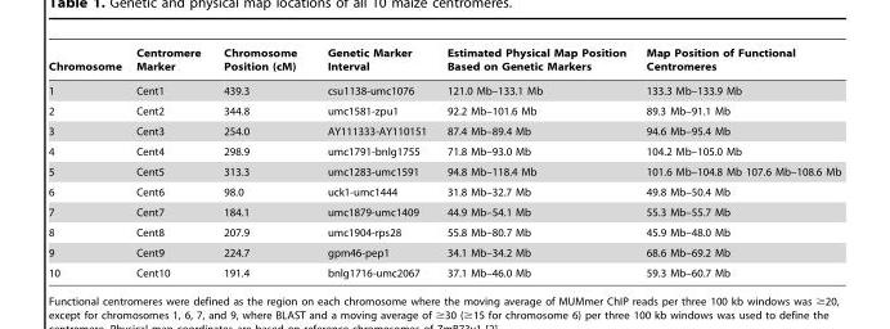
<table><thead><tr><td>Chromosome</td><td>Centromere Marker</td><td>Chromosome Position (cM)</td><td>Genetic Marker Interval</td><td>Estimated Physical Map Position Based on Genetic Markers</td><td>Map Position of Functional Centromeres</td></tr></thead><tbody><tr><td>1</td><td>Cent1</td><td>439.3</td><td>csu1138-umc1076</td><td>121.0 Mb–133.1 Mb</td><td>133.3 Mb–133.9 Mb</td></tr><tr><td>2</td><td>Cent2</td><td>344.8</td><td>umc1581-zpu1</td><td>92.2 Mb–101.6 Mb</td><td>89.3 Mb–91.1 Mb</td></tr><tr><td>3</td><td>Cent3</td><td>254.0</td><td>AY111333-AY110151</td><td>87.4 Mb–89.4 Mb</td><td>94.6 Mb–95.4 Mb</td></tr><tr><td>4</td><td>Cent4</td><td>298.9</td><td>umc1791-bnlg1755</td><td>71.8 Mb–93.0 Mb</td><td>104.2 Mb–105.0 Mb</td></tr><tr><td>5</td><td>Cent5</td><td>313.3</td><td>umc1283-umc1591</td><td>94.8 Mb–118.4 Mb</td><td>101.6 Mb–104.8 Mb 107.6 Mb–108.6 Mb</td></tr><tr><td>6</td><td>Cent6</td><td>98.0</td><td>uck1-umc1444</td><td>31.8 Mb–32.7 Mb</td><td>49.8 Mb–50.4 Mb</td></tr><tr><td>7</td><td>Cent7</td><td>184.1</td><td>umc1879-umc1409</td><td>44.9 Mb–54.1 Mb</td><td>55.3 Mb–55.7 Mb</td></tr><tr><td>8</td><td>Cent8</td><td>207.9</td><td>umc1904-rps28</td><td>55.8 Mb–80.7 Mb</td><td>45.9 Mb–48.0 Mb</td></tr><tr><td>9</td><td>Cent9</td><td>224.7</td><td>gpm46-pep1</td><td>34.1 Mb–34.2 Mb</td><td>68.6 Mb–69.2 Mb</td></tr><tr><td>10</td><td>Cent10</td><td>191.4</td><td>bnlg1716-umc2067</td><td>37.1 Mb–46.0 Mb</td><td>59.3 Mb–60.7 Mb</td></tr></tbody></table>